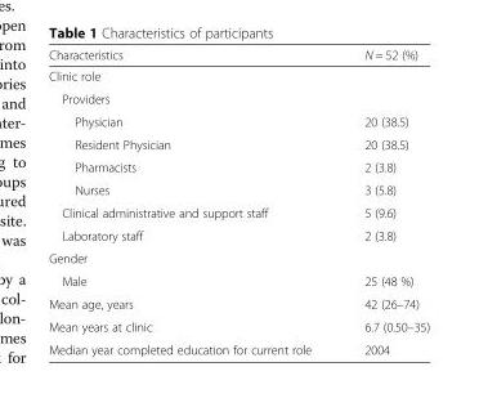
<table><thead><tr><td>Characteristics</td><td>N = 52 (%)</td></tr></thead><tbody><tr><td colspan="2">Clinic role</td></tr><tr><td colspan="2">Providers</td></tr><tr><td>Physician</td><td>20 (38.5)</td></tr><tr><td>Resident Physician</td><td>20 (38.5)</td></tr><tr><td>Pharmacists</td><td>2 (3.8)</td></tr><tr><td>Nurses</td><td>3 (5.8)</td></tr><tr><td>Clinical administrative and support staff</td><td>5 (9.6)</td></tr><tr><td>Laboratory staff</td><td>2 (3.8)</td></tr><tr><td colspan="2">Gender</td></tr><tr><td>Male</td><td>25 (48 %)</td></tr><tr><td>Mean age, years</td><td>42 (26–74)</td></tr><tr><td>Mean years at clinic</td><td>6.7 (0.50–35)</td></tr><tr><td>Median year completed education for current role</td><td>2004</td></tr></tbody></table>